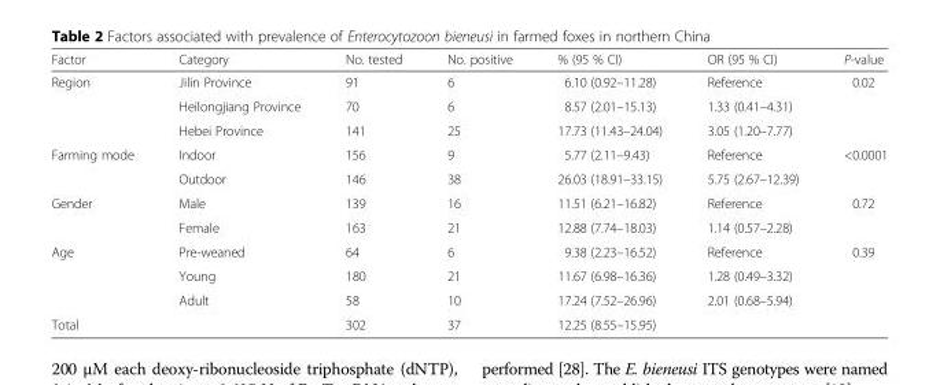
<table><thead><tr><td>Factor</td><td>Category</td><td>No. tested</td><td>No. positive</td><td>% (95 % CI)</td><td>OR (95 % CI)</td><td>P-value</td></tr></thead><tbody><tr><td rowspan="3">Region</td><td>Jilin Province</td><td>91</td><td>6</td><td>6.10 (0.92–11.28)</td><td>Reference</td><td rowspan="3">0.02</td></tr><tr><td>Heilongjiang Province</td><td>70</td><td>6</td><td>8.57 (2.01–15.13)</td><td>1.33 (0.41–4.31)</td></tr><tr><td>Hebei Province</td><td>141</td><td>25</td><td>17.73 (11.43–24.04)</td><td>3.05 (1.20–7.77)</td></tr><tr><td rowspan="2">Farming mode</td><td>Indoor</td><td>156</td><td>9</td><td>5.77 (2.11–9.43)</td><td>Reference</td><td rowspan="2">&lt;0.0001</td></tr><tr><td>Outdoor</td><td>146</td><td>38</td><td>26.03 (18.91–33.15)</td><td>5.75 (2.67–12.39)</td></tr><tr><td rowspan="2">Gender</td><td>Male</td><td>139</td><td>16</td><td>11.51 (6.21–16.82)</td><td>Reference</td><td rowspan="2">0.72</td></tr><tr><td>Female</td><td>163</td><td>21</td><td>12.88 (7.74–18.03)</td><td>1.14 (0.57–2.28)</td></tr><tr><td rowspan="3">Age</td><td>Pre-weaned</td><td>64</td><td>6</td><td>9.38 (2.23–16.52)</td><td>Reference</td><td rowspan="3">0.39</td></tr><tr><td>Young</td><td>180</td><td>21</td><td>11.67 (6.98–16.36)</td><td>1.28 (0.49–3.32)</td></tr><tr><td>Adult</td><td>58</td><td>10</td><td>17.24 (7.52–26.96)</td><td>2.01 (0.68–5.94)</td></tr><tr><td>Total</td><td></td><td>302</td><td>37</td><td>12.25 (8.55–15.95)</td><td></td><td></td></tr></tbody></table>